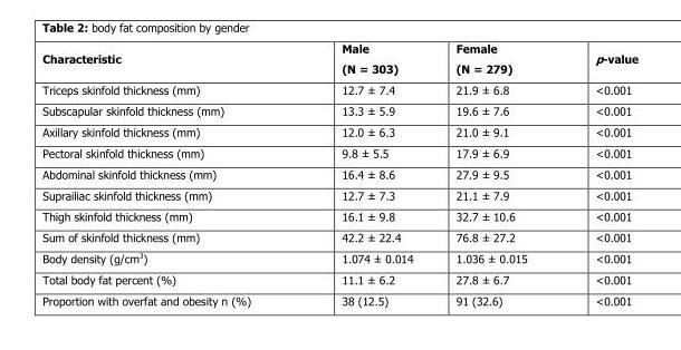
<table><thead><tr><td>Characteristic</td><td>Male (N = 303)</td><td>Female (N = 279)</td><td>p-value</td></tr></thead><tbody><tr><td>Triceps skinfold thickness (mm)</td><td>12.7 ± 7.4</td><td>21.9 ± 6.8</td><td>&lt;0.001</td></tr><tr><td>Subscapular skinfold thickness (mm)</td><td>13.3 ± 5.9</td><td>19.6 ± 7.6</td><td>&lt;0.001</td></tr><tr><td>Axillary skinfold thickness (mm)</td><td>12.0 ± 6.3</td><td>21.0 ± 9.1</td><td>&lt;0.001</td></tr><tr><td>Pectoral skinfold thickness (mm)</td><td>9.8 ± 5.5</td><td>17.9 ± 6.9</td><td>&lt;0.001</td></tr><tr><td>Abdominal skinfold thickness (mm)</td><td>16.4 ± 8.6</td><td>27.9 ± 9.5</td><td>&lt;0.001</td></tr><tr><td>Suprailiac skinfold thickness (mm)</td><td>12.7 ± 7.3</td><td>21.1 ± 7.9</td><td>&lt;0.001</td></tr><tr><td>Thigh skinfold thickness (mm)</td><td>16.1 ± 9.8</td><td>32.7 ± 10.6</td><td>&lt;0.001</td></tr><tr><td>Sum of skinfold thickness (mm)</td><td>42.2 ± 22.4</td><td>76.8 ± 27.2</td><td>&lt;0.001</td></tr><tr><td>Body density (g/cm<sup>3</sup>)</td><td>1.074 ± 0.014</td><td>1.036 ± 0.015</td><td>&lt;0.001</td></tr><tr><td>Total body fat percent (%)</td><td>11.1 ± 6.2</td><td>27.8 ± 6.7</td><td>&lt;0.001</td></tr><tr><td>Proportion with overfat and obesity n (%)</td><td>38 (12.5)</td><td>91 (32.6)</td><td>&lt;0.001</td></tr></tbody></table>